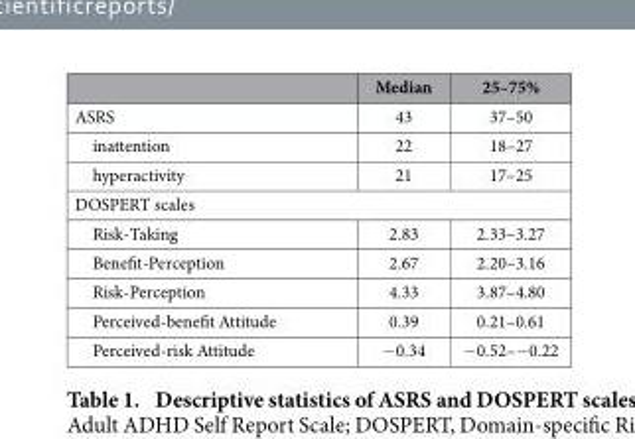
<table><thead><tr><td></td><td>Median</td><td>25–75%</td></tr></thead><tbody><tr><td>ASRS</td><td>43</td><td>37–50</td></tr><tr><td>inattention</td><td>22</td><td>18–27</td></tr><tr><td>hyperactivity</td><td>21</td><td>17–25</td></tr><tr><td colspan="3">DOSPERT scales</td></tr><tr><td>Risk-Taking</td><td>2.83</td><td>2.33–3.27</td></tr><tr><td>Benefit-Perception</td><td>2.67</td><td>2.20–3.16</td></tr><tr><td>Risk-Perception</td><td>4.33</td><td>3.87–4.80</td></tr><tr><td>Perceived-benefit Attitude</td><td>0.39</td><td>0.21–0.61</td></tr><tr><td>Perceived-risk Attitude</td><td>− 0.34</td><td>− 0.52–− 0.22</td></tr></tbody></table>